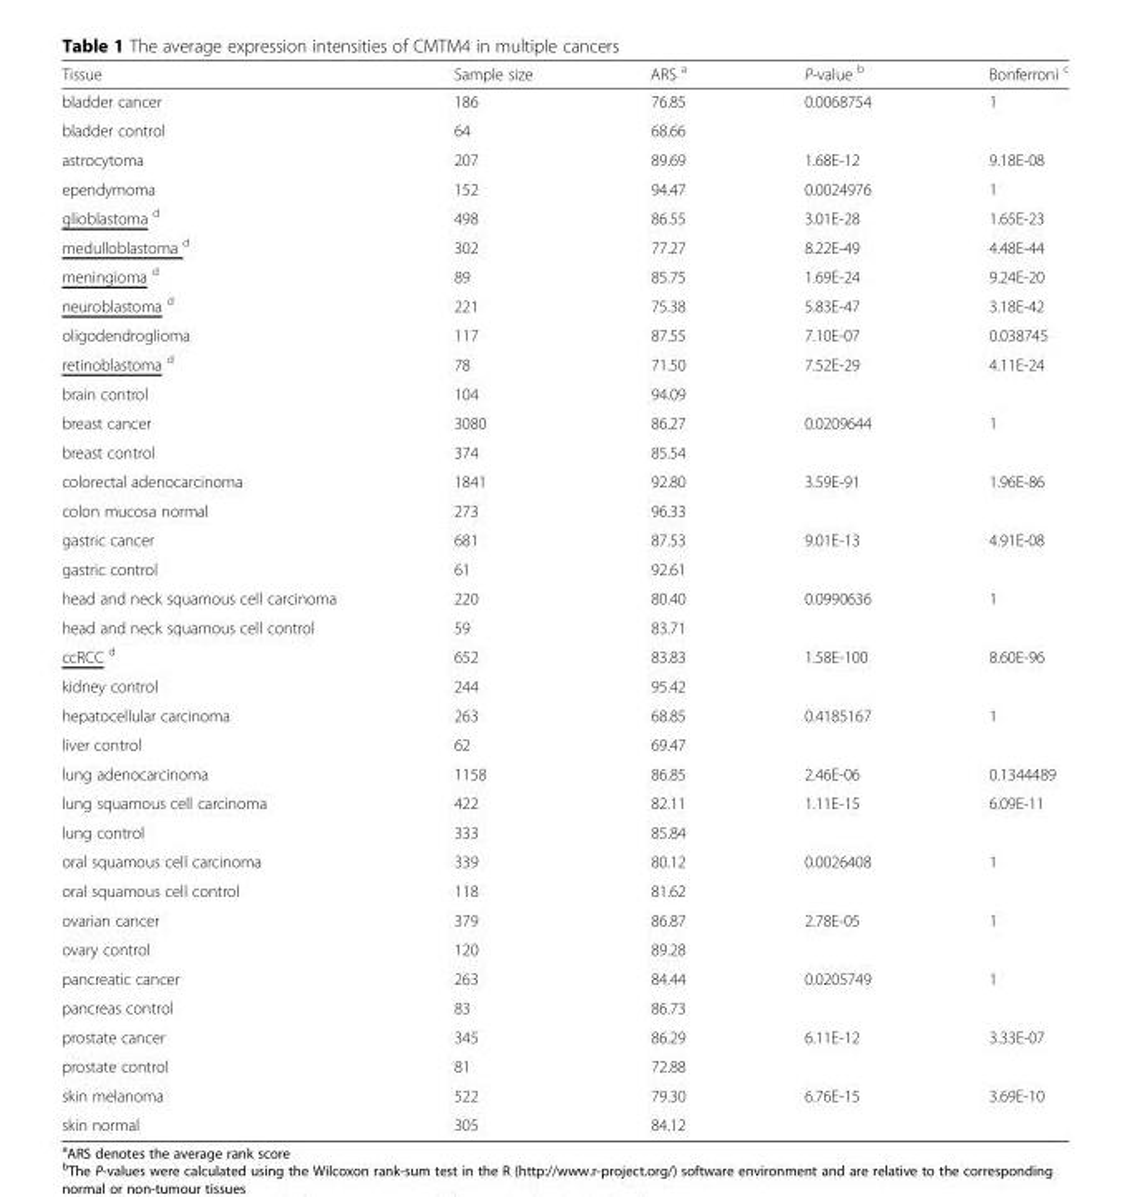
<table><thead><tr><td>Tissue</td><td>Sample size</td><td>ARS <sup>a</sup></td><td>P-value <sup>b</sup></td><td>Bonferroni <sup>c</sup></td></tr></thead><tbody><tr><td>bladder cancer</td><td>186</td><td>76.85</td><td>0.0068754</td><td>1</td></tr><tr><td>bladder control</td><td>64</td><td>68.66</td><td></td><td></td></tr><tr><td>astrocytoma</td><td>207</td><td>89.69</td><td>1.68E-12</td><td>9.18E-08</td></tr><tr><td>ependymoma</td><td>152</td><td>94.47</td><td>0.0024976</td><td>1</td></tr><tr><td>glioblastoma <sup>d</sup></td><td>498</td><td>86.55</td><td>3.01E-28</td><td>1.65E-23</td></tr><tr><td>medulloblastoma <sup>d</sup></td><td>302</td><td>77.27</td><td>8.22E-49</td><td>4.48E-44</td></tr><tr><td>meningioma <sup>d</sup></td><td>89</td><td>85.75</td><td>1.69E-24</td><td>9.24E-20</td></tr><tr><td>neuroblastoma <sup>d</sup></td><td>221</td><td>75.38</td><td>5.83E-47</td><td>3.18E-42</td></tr><tr><td>oligodendroglioma</td><td>117</td><td>87.55</td><td>7.10E-07</td><td>0.038745</td></tr><tr><td>retinoblastoma <sup>d</sup></td><td>78</td><td>71.50</td><td>7.52E-29</td><td>4.11E-24</td></tr><tr><td>brain control</td><td>104</td><td>94.09</td><td></td><td></td></tr><tr><td>breast cancer</td><td>3080</td><td>86.27</td><td>0.0209644</td><td>1</td></tr><tr><td>breast control</td><td>374</td><td>85.54</td><td></td><td></td></tr><tr><td>colorectal adenocarcinoma</td><td>1841</td><td>92.80</td><td>3.59E-91</td><td>1.96E-86</td></tr><tr><td>colon mucosa normal</td><td>273</td><td>96.33</td><td></td><td></td></tr><tr><td>gastric cancer</td><td>681</td><td>87.53</td><td>9.01E-13</td><td>4.91E-08</td></tr><tr><td>gastric control</td><td>61</td><td>92.61</td><td></td><td></td></tr><tr><td>head and neck squamous cell carcinoma</td><td>220</td><td>80.40</td><td>0.0990636</td><td>1</td></tr><tr><td>head and neck squamous cell control</td><td>59</td><td>83.71</td><td></td><td></td></tr><tr><td>ccRCC <sup>d</sup></td><td>652</td><td>83.83</td><td>1.58E-100</td><td>8.60E-96</td></tr><tr><td>kidney control</td><td>244</td><td>95.42</td><td></td><td></td></tr><tr><td>hepatocellular carcinoma</td><td>263</td><td>68.85</td><td>0.4185167</td><td>1</td></tr><tr><td>liver control</td><td>62</td><td>69.47</td><td></td><td></td></tr><tr><td>lung adenocarcinoma</td><td>1158</td><td>86.85</td><td>2.46E-06</td><td>0.1344489</td></tr><tr><td>lung squamous cell carcinoma</td><td>422</td><td>82.11</td><td>1.11E-15</td><td>6.09E-11</td></tr><tr><td>lung control</td><td>333</td><td>85.84</td><td></td><td></td></tr><tr><td>oral squamous cell carcinoma</td><td>339</td><td>80.12</td><td>0.0026408</td><td>1</td></tr><tr><td>oral squamous cell control</td><td>118</td><td>81.62</td><td></td><td></td></tr><tr><td>ovarian cancer</td><td>379</td><td>86.87</td><td>2.78E-05</td><td>1</td></tr><tr><td>ovary control</td><td>120</td><td>89.28</td><td></td><td></td></tr><tr><td>pancreatic cancer</td><td>263</td><td>84.44</td><td>0.0205749</td><td>1</td></tr><tr><td>pancreas control</td><td>83</td><td>86.73</td><td></td><td></td></tr><tr><td>prostate cancer</td><td>345</td><td>86.29</td><td>6.11E-12</td><td>3.33E-07</td></tr><tr><td>prostate control</td><td>81</td><td>72.88</td><td></td><td></td></tr><tr><td>skin melanoma</td><td>522</td><td>79.30</td><td>6.76E-15</td><td>3.69E-10</td></tr><tr><td>skin normal</td><td>305</td><td>84.12</td><td></td><td></td></tr></tbody></table>